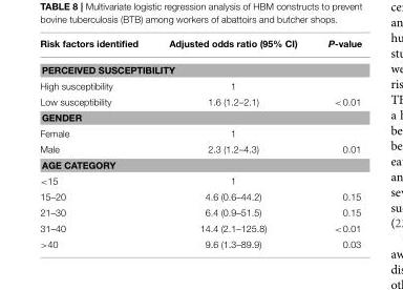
<table><thead><tr><td>Risk factors identified</td><td>Adjusted odds ratio (95% CI)</td><td>P-value</td></tr></thead><tbody><tr><td colspan="3">PERCEIVED SUSCEPTIBILITY</td></tr><tr><td>High susceptibility</td><td>1</td><td></td></tr><tr><td>Low susceptibility</td><td>1.6 (1.2–2.1)</td><td>&lt;0.01</td></tr><tr><td colspan="3">GENDER</td></tr><tr><td>Female</td><td>1</td><td></td></tr><tr><td>Male</td><td>2.3 (1.2–4.3)</td><td>0.01</td></tr><tr><td colspan="3">AGE CATEGORY</td></tr><tr><td>&lt;15</td><td>1</td><td></td></tr><tr><td>15–20</td><td>4.6 (0.6–44.2)</td><td>0.15</td></tr><tr><td>21–30</td><td>6.4 (0.9–51.5)</td><td>0.15</td></tr><tr><td>31–40</td><td>14.4 (2.1–125.8)</td><td>&lt;0.01</td></tr><tr><td>&gt;40</td><td>9.6 (1.3–89.9)</td><td>0.03</td></tr></tbody></table>